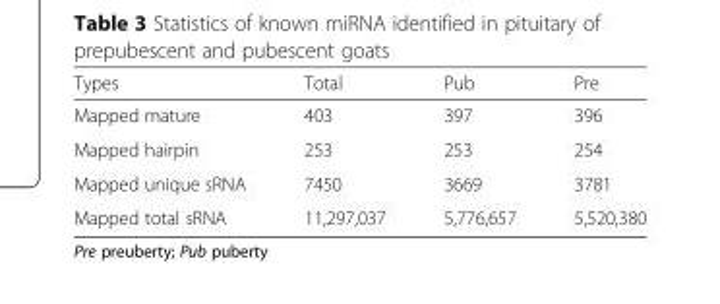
<table><thead><tr><td>Types</td><td>Total</td><td>Pub</td><td>Pre</td></tr></thead><tbody><tr><td>Mapped mature</td><td>403</td><td>397</td><td>396</td></tr><tr><td>Mapped hairpin</td><td>253</td><td>253</td><td>254</td></tr><tr><td>Mapped unique sRNA</td><td>7450</td><td>3669</td><td>3781</td></tr><tr><td>Mapped total sRNA</td><td>11,297,037</td><td>5,776,657</td><td>5,520,380</td></tr></tbody></table>